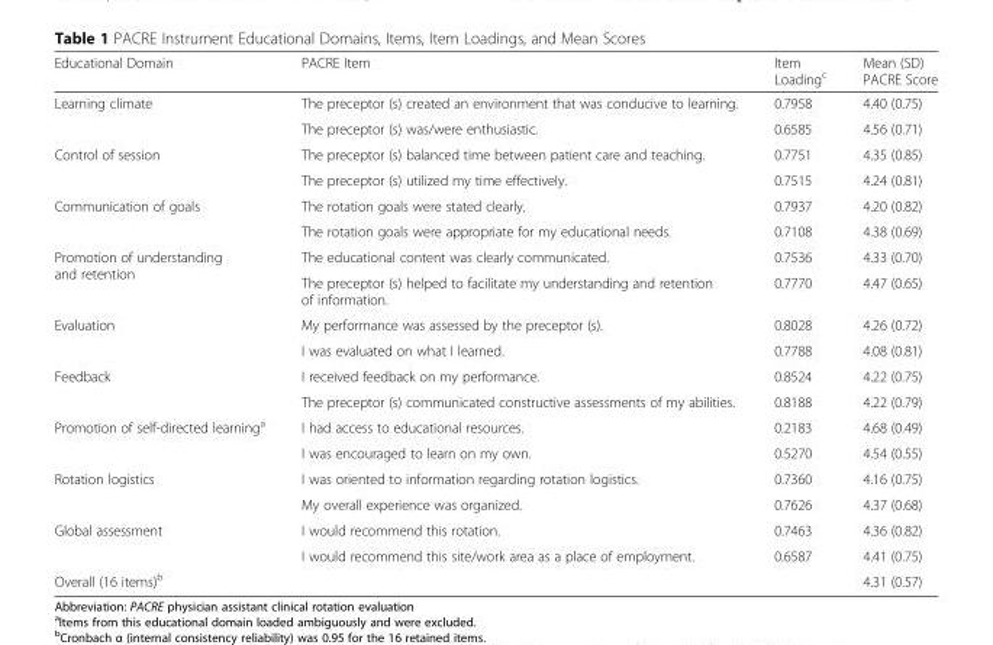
<table><thead><tr><td>Educational Domain</td><td>PACRE Item</td><td>Item Loading<sup>c</sup></td><td>Mean (SD) PACRE Score</td></tr></thead><tbody><tr><td rowspan="2">Learning climate</td><td>The preceptor (s) created an environment that was conducive to learning.</td><td>0.7958</td><td>4.40 (0.75)</td></tr><tr><td>The preceptor (s) was/were enthusiastic.</td><td>0.6585</td><td>4.56 (0.71)</td></tr><tr><td rowspan="2">Control of session</td><td>The preceptor (s) balanced time between patient care and teaching.</td><td>0.7751</td><td>4.35 (0.85)</td></tr><tr><td>The preceptor (s) utilized my time effectively.</td><td>0.7515</td><td>4.24 (0.81)</td></tr><tr><td rowspan="2">Communication of goals</td><td>The rotation goals were stated clearly.</td><td>0.7937</td><td>4.20 (0.82)</td></tr><tr><td>The rotation goals were appropriate for my educational needs.</td><td>0.7108</td><td>4.38 (0.69)</td></tr><tr><td rowspan="2">Promotion of understanding and retention</td><td>The educational content was clearly communicated.</td><td>0.7536</td><td>4.33 (0.70)</td></tr><tr><td>The preceptor (s) helped to facilitate my understanding and retention of information.</td><td>0.7770</td><td>4.47 (0.65)</td></tr><tr><td rowspan="2">Evaluation</td><td>My performance was assessed by the preceptor (s).</td><td>0.8028</td><td>4.26 (0.72)</td></tr><tr><td>I was evaluated on what I learned.</td><td>0.7788</td><td>4.08 (0.81)</td></tr><tr><td rowspan="2">Feedback</td><td>I received feedback on my performance.</td><td>0.8524</td><td>4.22 (0.75)</td></tr><tr><td>The preceptor (s) communicated constructive assessments of my abilities.</td><td>0.8188</td><td>4.22 (0.79)</td></tr><tr><td rowspan="2">Promotion of self-directed learning<sup>a</sup></td><td>I had access to educational resources.</td><td>0.2183</td><td>4.68 (0.49)</td></tr><tr><td>I was encouraged to learn on my own.</td><td>0.5270</td><td>4.54 (0.55)</td></tr><tr><td rowspan="2">Rotation logistics</td><td>I was oriented to information regarding rotation logistics.</td><td>0.7360</td><td>4.16 (0.75)</td></tr><tr><td>My overall experience was organized.</td><td>0.7626</td><td>4.37 (0.68)</td></tr><tr><td rowspan="2">Global assessment</td><td>I would recommend this rotation.</td><td>0.7463</td><td>4.36 (0.82)</td></tr><tr><td>I would recommend this site/work area as a place of employment.</td><td>0.6587</td><td>4.41 (0.75)</td></tr><tr><td>Overall (16 items)<sup>b</sup></td><td colspan="2"></td><td>4.31 (0.57)</td></tr></tbody></table>